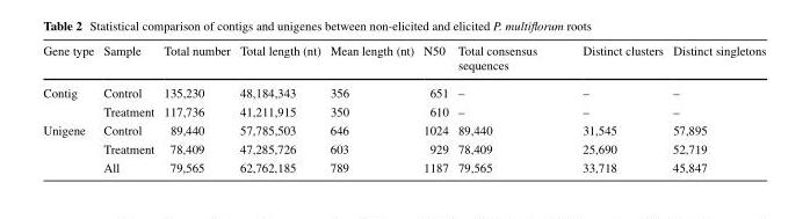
<table><thead><tr><td>Gene type</td><td>Sample</td><td>Total number</td><td>Total length (nt)</td><td>Mean length (nt)</td><td>N50</td><td>Total consensus sequences</td><td>Distinct clusters</td><td>Distinct singletons</td></tr></thead><tbody><tr><td rowspan="2">Contig</td><td>Control</td><td>135,230</td><td>48,184,343</td><td>356</td><td>651</td><td>–</td><td>–</td><td>–</td></tr><tr><td>Treatment</td><td>117,736</td><td>41,211,915</td><td>350</td><td>610</td><td>–</td><td>–</td><td>–</td></tr><tr><td rowspan="3">Unigene</td><td>Control</td><td>89,440</td><td>57,785,503</td><td>646</td><td>1024</td><td>89,440</td><td>31,545</td><td>57,895</td></tr><tr><td>Treatment</td><td>78,409</td><td>47,285,726</td><td>603</td><td>929</td><td>78,409</td><td>25,690</td><td>52,719</td></tr><tr><td>All</td><td>79,565</td><td>62,762,185</td><td>789</td><td>1187</td><td>79,565</td><td>33,718</td><td>45,847</td></tr></tbody></table>